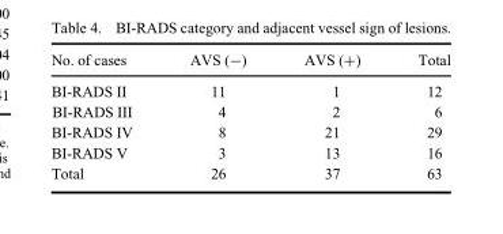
<table><thead><tr><td>No. of cases</td><td>AVS (−)</td><td>AVS (+)</td><td>Total</td></tr></thead><tbody><tr><td>BI-RADS II</td><td>11</td><td>1</td><td>12</td></tr><tr><td>BI-RADS III</td><td>4</td><td>2</td><td>6</td></tr><tr><td>BI-RADS IV</td><td>8</td><td>21</td><td>29</td></tr><tr><td>BI-RADS V</td><td>3</td><td>13</td><td>16</td></tr><tr><td>Total</td><td>26</td><td>37</td><td>63</td></tr></tbody></table>